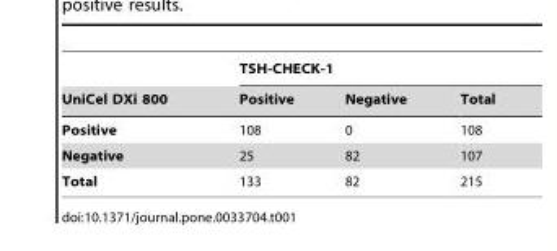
<table><thead><tr><td rowspan="2">UniCel DXi 800</td><td colspan="3">TSH-CHECK-1</td></tr><tr><td>Positive</td><td>Negative</td><td>Total</td></tr></thead><tbody><tr><td>Positive</td><td>108</td><td>0</td><td>108</td></tr><tr><td>Negative</td><td>25</td><td>82</td><td>107</td></tr><tr><td>Total</td><td>133</td><td>82</td><td>215</td></tr></tbody></table>